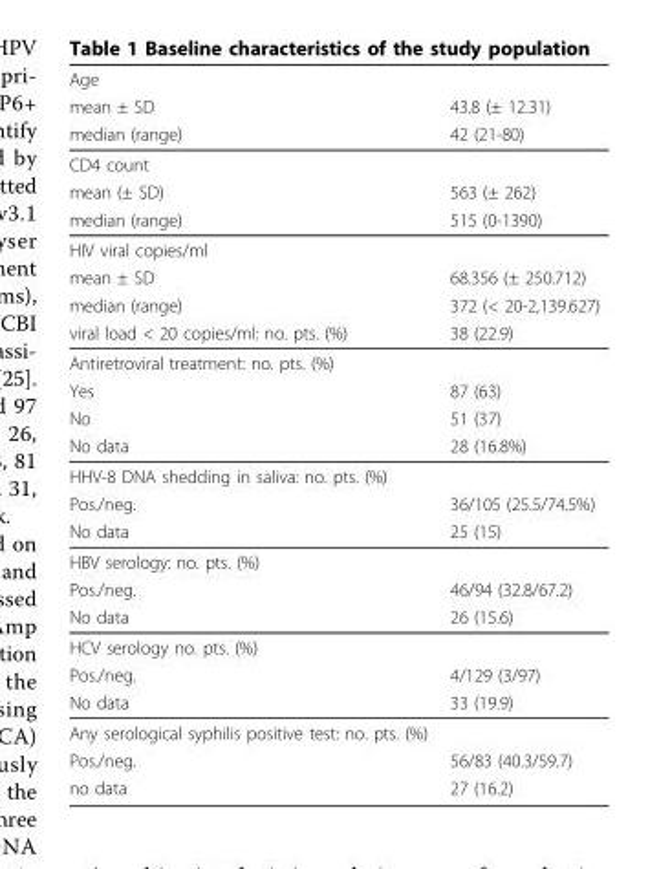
<table><thead><tr><td rowspan="3">Age mean ± SD median (range)</td><td rowspan="3">43.8 (± 12.31) 42 (21-80)</td></tr><tr></tr><tr></tr></thead><tbody><tr><td colspan="2">CD4 count</td></tr><tr><td>mean (± SD)</td><td>563 (± 262)</td></tr><tr><td>median (range)</td><td>515 (0-1390)</td></tr><tr><td colspan="2">HIV viral copies/ml</td></tr><tr><td>mean ± SD</td><td>68.356 (± 250.712)</td></tr><tr><td>median (range)</td><td>372 (&lt; 20-2,139.627)</td></tr><tr><td>viral load &lt; 20 copies/ml: no. pts. (%)</td><td>38 (22.9)</td></tr><tr><td colspan="2">Antiretroviral treatment: no. pts. (%)</td></tr><tr><td>Yes</td><td>87 (63)</td></tr><tr><td>No</td><td>51 (37)</td></tr><tr><td>No data</td><td>28 (16.8%)</td></tr><tr><td colspan="2">HHV-8 DNA shedding in saliva: no. pts. (%)</td></tr><tr><td>Pos./neg.</td><td>36/105 (25.5/74.5%)</td></tr><tr><td>No data</td><td>25 (15)</td></tr><tr><td colspan="2">HBV serology: no. pts. (%)</td></tr><tr><td>Pos./neg.</td><td>46/94 (32.8/67.2)</td></tr><tr><td>No data</td><td>26 (15.6)</td></tr><tr><td colspan="2">HCV serology no. pts. (%)</td></tr><tr><td>Pos./neg.</td><td>4/129 (3/97)</td></tr><tr><td>No data</td><td>33 (19.9)</td></tr><tr><td colspan="2">Any serological syphilis positive test: no. pts. (%)</td></tr><tr><td>Pos./neg.</td><td>56/83 (40.3/59.7)</td></tr><tr><td>no data</td><td>27 (16.2)</td></tr></tbody></table>